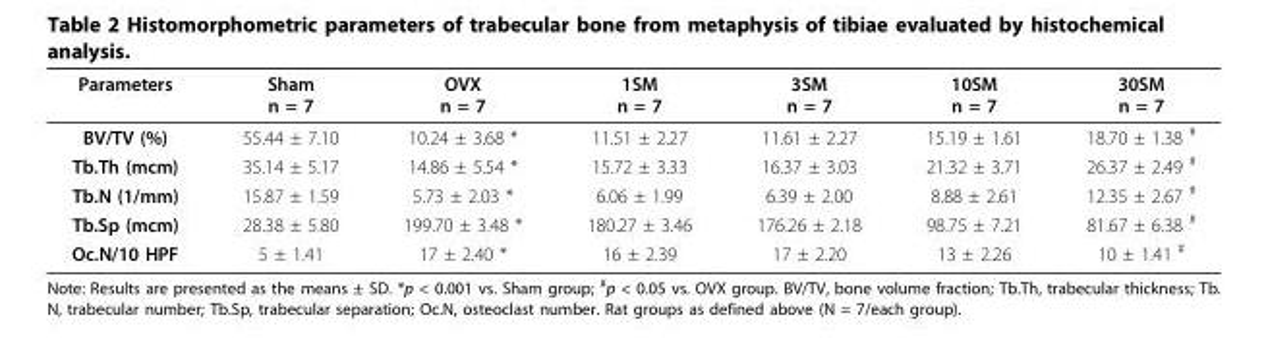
<table><thead><tr><td>Parameters</td><td>Sham n = 7</td><td>OVX n = 7</td><td>1SM n = 7</td><td>3SM n = 7</td><td>10SM n = 7</td><td>30SM n = 7</td></tr></thead><tbody><tr><td>BV/TV (%)</td><td>55.44 ± 7.10</td><td>10.24 ± 3.68 *</td><td>11.51 ± 2.27</td><td>11.61 ± 2.27</td><td>15.19 ± 1.61</td><td>18.70 ± 1.38 <sup>#</sup></td></tr><tr><td>Tb.Th (mcm)</td><td>35.14 ± 5.17</td><td>14.86 ± 5.54 *</td><td>15.72 ± 3.33</td><td>16.37 ± 3.03</td><td>21.32 ± 3.71</td><td>26.37 ± 2.49 <sup>#</sup></td></tr><tr><td>Tb.N (1/mm)</td><td>15.87 ± 1.59</td><td>5.73 ± 2.03 *</td><td>6.06 ± 1.99</td><td>6.39 ± 2.00</td><td>8.88 ± 2.61</td><td>12.35 ± 2.67 <sup>#</sup></td></tr><tr><td>Tb.Sp (mcm)</td><td>28.38 ± 5.80</td><td>199.70 ± 3.48 *</td><td>180.27 ± 3.46</td><td>176.26 ± 2.18</td><td>98.75 ± 7.21</td><td>81.67 ± 6.38 <sup>#</sup></td></tr><tr><td>Oc.N/10 HPF</td><td>5 ± 1.41</td><td>17 ± 2.40 *</td><td>16 ± 2.39</td><td>17 ± 2.20</td><td>13 ± 2.26</td><td>10 ± 1.41 <sup>#</sup></td></tr></tbody></table>